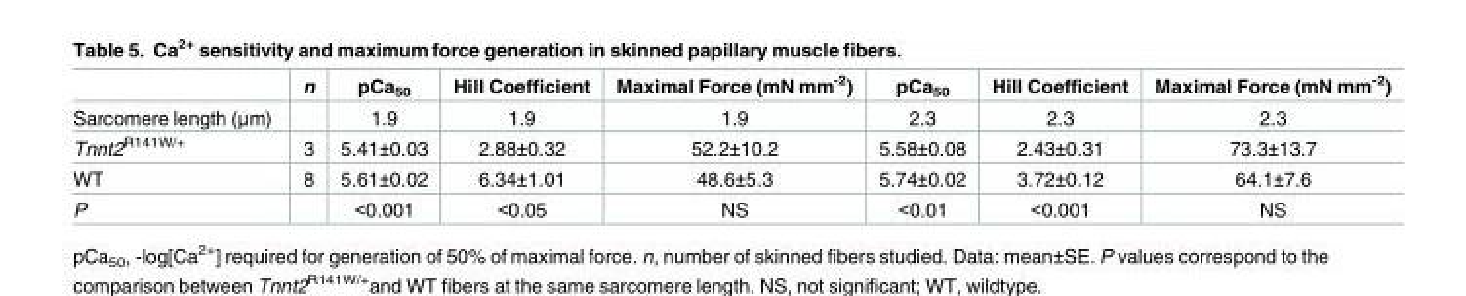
<table><thead><tr><td></td><td>n</td><td>pCa<sub>50</sub></td><td>Hill Coefficient</td><td>Maximal Force (mN mm<sup>-2</sup>)</td><td>pCa<sub>50</sub></td><td>Hill Coefficient</td><td>Maximal Force (mN mm<sup>-2</sup>)</td></tr></thead><tbody><tr><td>Sarcomere length (μm)</td><td></td><td>1.9</td><td>1.9</td><td>1.9</td><td>2.3</td><td>2.3</td><td>2.3</td></tr><tr><td>Tnnt2<sup>R141W/+</sup></td><td>3</td><td>5.41±0.03</td><td>2.88±0.32</td><td>52.2±10.2</td><td>5.58±0.08</td><td>2.43±0.31</td><td>73.3±13.7</td></tr><tr><td>WT</td><td>8</td><td>5.61±0.02</td><td>6.34±1.01</td><td>48.6±5.3</td><td>5.74±0.02</td><td>3.72±0.12</td><td>64.1±7.6</td></tr><tr><td>P</td><td></td><td>&lt;0.001</td><td>&lt;0.05</td><td>NS</td><td>&lt;0.01</td><td>&lt;0.001</td><td>NS</td></tr></tbody></table>